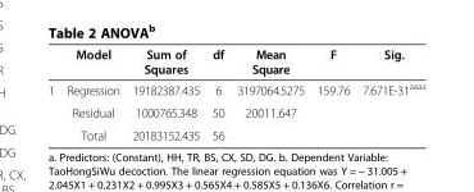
<table><thead><tr><td></td><td>Model</td><td>Sum of Squares</td><td>df</td><td>Mean Square</td><td>F</td><td>Sig.</td></tr></thead><tbody><tr><td rowspan="3">1</td><td>Regression</td><td>19182387.435</td><td>6</td><td>3197064.5275</td><td>159.76</td><td>7.671E-31<sup>aaaa</sup></td></tr><tr><td>Residual</td><td>1000765.348</td><td>50</td><td>20011.647</td><td></td><td></td></tr><tr><td>Total</td><td>20183152.435</td><td>56</td><td></td><td></td><td></td></tr></tbody></table>